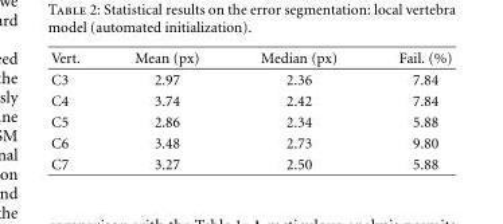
<table><thead><tr><td>Vert.</td><td>Mean (px)</td><td>Median (px)</td><td>Fail. (%)</td></tr></thead><tbody><tr><td>C3</td><td>2.97</td><td>2.36</td><td>7.84</td></tr><tr><td>C4</td><td>3.74</td><td>2.42</td><td>7.84</td></tr><tr><td>C5</td><td>2.86</td><td>2.34</td><td>5.88</td></tr><tr><td>C6</td><td>3.48</td><td>2.73</td><td>9.80</td></tr><tr><td>C7</td><td>3.27</td><td>2.50</td><td>5.88</td></tr></tbody></table>